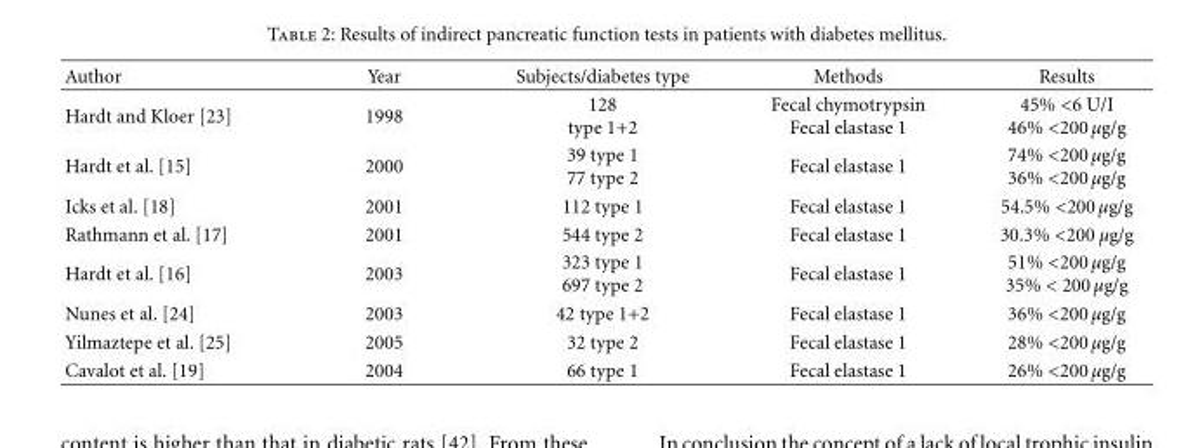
<table><thead><tr><td>Author</td><td>Year</td><td>Subjects/diabetes type</td><td>Methods</td><td>Results</td></tr></thead><tbody><tr><td>Hardt and Kloer [23]</td><td>1998</td><td>128 type 1+2</td><td>Fecal chymotrypsin Fecal elastase 1</td><td>45% &lt;6 U/I 46% &lt;200 μg/g</td></tr><tr><td>Hardt et al. [15]</td><td>2000</td><td>39 type 1 77 type 2</td><td>Fecal elastase 1</td><td>74% &lt;200 μg/g 36% &lt;200 μg/g</td></tr><tr><td>Icks et al. [18]</td><td>2001</td><td>112 type 1</td><td>Fecal elastase 1</td><td>54.5% &lt;200 μg/g</td></tr><tr><td>Rathmann et al. [17]</td><td>2001</td><td>544 type 2</td><td>Fecal elastase 1</td><td>30.3% &lt;200 μg/g</td></tr><tr><td>Hardt et al. [16]</td><td>2003</td><td>323 type 1 697 type 2</td><td>Fecal elastase 1</td><td>51% &lt;200 μg/g 35% &lt; 200 μg/g</td></tr><tr><td>Nunes et al. [24]</td><td>2003</td><td>42 type 1+2</td><td>Fecal elastase 1</td><td>36% &lt;200 μg/g</td></tr><tr><td>Yilmaztepe et al. [25]</td><td>2005</td><td>32 type 2</td><td>Fecal elastase 1</td><td>28% &lt;200 μg/g</td></tr><tr><td>Cavalot et al. [19]</td><td>2004</td><td>66 type 1</td><td>Fecal elastase 1</td><td>26% &lt;200 μg/g</td></tr></tbody></table>